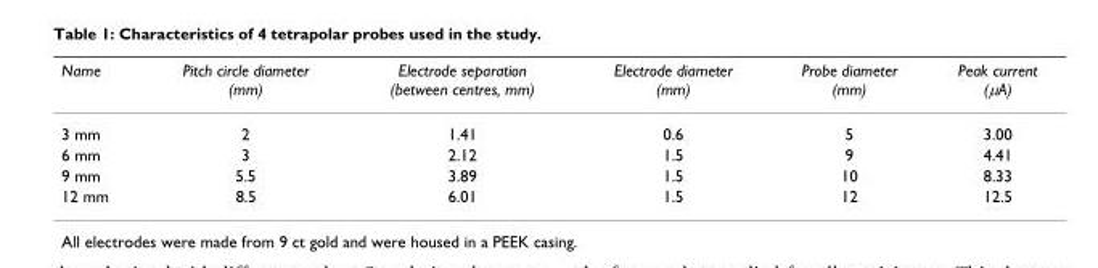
<table><thead><tr><td>Name</td><td>Pitch circle diameter (mm)</td><td>Electrode separation (between centres, mm)</td><td>Electrode diameter (mm)</td><td>Probe diameter (mm)</td><td>Peak current (μA)</td></tr></thead><tbody><tr><td>3 mm</td><td>2</td><td>1.41</td><td>0.6</td><td>5</td><td>3.00</td></tr><tr><td>6 mm</td><td>3</td><td>2.12</td><td>1.5</td><td>9</td><td>4.41</td></tr><tr><td>9 mm</td><td>5.5</td><td>3.89</td><td>1.5</td><td>10</td><td>8.33</td></tr><tr><td>12 mm</td><td>8.5</td><td>6.01</td><td>1.5</td><td>12</td><td>12.5</td></tr></tbody></table>